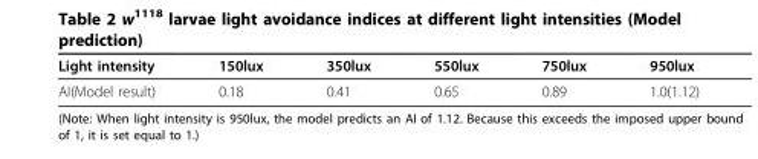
<table><thead><tr><td>Light intensity</td><td>150lux</td><td>350lux</td><td>550lux</td><td>750lux</td><td>950lux</td></tr></thead><tbody><tr><td>AI(Model result)</td><td>0.18</td><td>0.41</td><td>0.65</td><td>0.89</td><td>1.0(1.12)</td></tr></tbody></table>